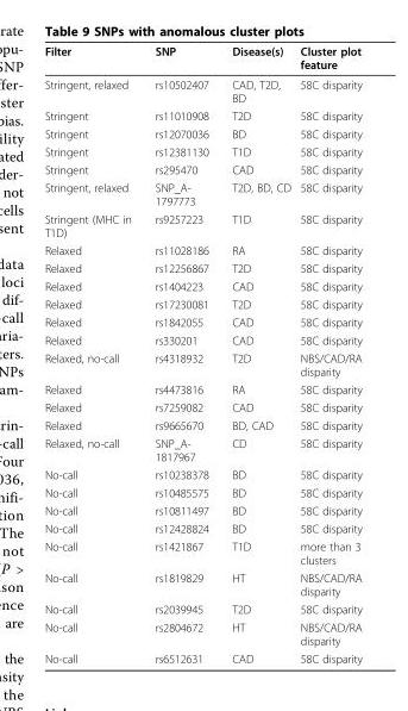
<table><thead><tr><td>Filter</td><td>SNP</td><td>Disease(s)</td><td>Cluster plot feature</td></tr></thead><tbody><tr><td>Stringent, relaxed</td><td>rs10502407</td><td>CAD, T2D, BD</td><td>58C disparity</td></tr><tr><td>Stringent</td><td>rs11010908</td><td>T2D</td><td>58C disparity</td></tr><tr><td>Stringent</td><td>rs12070036</td><td>BD</td><td>58C disparity</td></tr><tr><td>Stringent</td><td>rs12381130</td><td>T1D</td><td>58C disparity</td></tr><tr><td>Stringent</td><td>rs295470</td><td>CAD</td><td>58C disparity</td></tr><tr><td>Stringent, relaxed</td><td>SNP_A- 1797773</td><td>T2D, BD, CD</td><td>58C disparity</td></tr><tr><td>Stringent (MHC in T1D)</td><td>rs9257223</td><td>T1D</td><td>58C disparity</td></tr><tr><td>Relaxed</td><td>rs11028186</td><td>RA</td><td>58C disparity</td></tr><tr><td>Relaxed</td><td>rs12256867</td><td>T2D</td><td>58C disparity</td></tr><tr><td>Relaxed</td><td>rs1404223</td><td>CAD</td><td>58C disparity</td></tr><tr><td>Relaxed</td><td>rs17230081</td><td>T2D</td><td>58C disparity</td></tr><tr><td>Relaxed</td><td>rs1842055</td><td>CAD</td><td>58C disparity</td></tr><tr><td>Relaxed</td><td>rs330201</td><td>CAD</td><td>58C disparity</td></tr><tr><td>Relaxed, no-call</td><td>rs4318932</td><td>T2D</td><td>NBS/CAD/RA disparity</td></tr><tr><td>Relaxed</td><td>rs4473816</td><td>RA</td><td>58C disparity</td></tr><tr><td>Relaxed</td><td>rs7259082</td><td>CAD</td><td>58C disparity</td></tr><tr><td>Relaxed</td><td>rs9665670</td><td>BD, CAD</td><td>58C disparity</td></tr><tr><td>Relaxed, no-call</td><td>SNP_A- 1817967</td><td>CD</td><td>58C disparity</td></tr><tr><td>No-call</td><td>rs10238378</td><td>BD</td><td>58C disparity</td></tr><tr><td>No-call</td><td>rs10485575</td><td>BD</td><td>58C disparity</td></tr><tr><td>No-call</td><td>rs10811497</td><td>BD</td><td>58C disparity</td></tr><tr><td>No-call</td><td>rs12428824</td><td>BD</td><td>58C disparity</td></tr><tr><td>No-call</td><td>rs1421867</td><td>T1D</td><td>more than 3 clusters</td></tr><tr><td>No-call</td><td>rs1819829</td><td>HT</td><td>NBS/CAD/RA disparity</td></tr><tr><td>No-call</td><td>rs2039945</td><td>T2D</td><td>58C disparity</td></tr><tr><td>No-call</td><td>rs2804672</td><td>HT</td><td>NBS/CAD/RA disparity</td></tr><tr><td>No-call</td><td>rs6512631</td><td>CAD</td><td>58C disparity</td></tr></tbody></table>